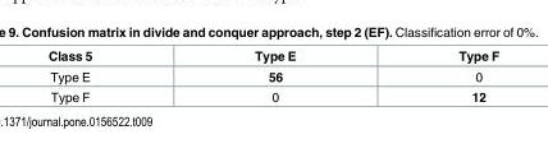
<table><thead><tr><td>Class 5</td><td>Type E</td><td>Type F</td></tr></thead><tbody><tr><td>Type E</td><td>56</td><td>0</td></tr><tr><td>Type F</td><td>0</td><td>12</td></tr></tbody></table>